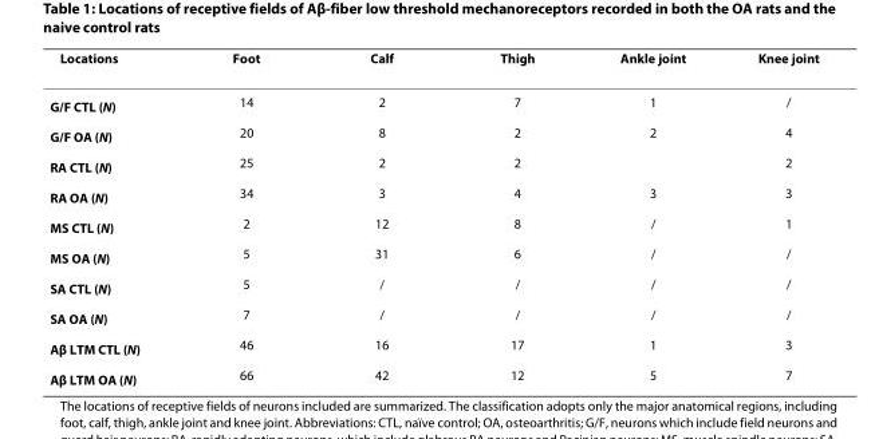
<table><thead><tr><td>Locations</td><td>Foot</td><td>Calf</td><td>Thigh</td><td>Ankle joint</td><td>Knee joint</td></tr></thead><tbody><tr><td>G/F CTL (N)</td><td>14</td><td>2</td><td>7</td><td>1</td><td>/</td></tr><tr><td>G/F OA (N)</td><td>20</td><td>8</td><td>2</td><td>2</td><td>4</td></tr><tr><td>RA CTL (N)</td><td>25</td><td>2</td><td>2</td><td></td><td>2</td></tr><tr><td>RA OA (N)</td><td>34</td><td>3</td><td>4</td><td>3</td><td>3</td></tr><tr><td>MS CTL (N)</td><td>2</td><td>12</td><td>8</td><td>/</td><td>1</td></tr><tr><td>MS OA (N)</td><td>5</td><td>31</td><td>6</td><td>/</td><td>/</td></tr><tr><td>SA CTL (N)</td><td>5</td><td>/</td><td>/</td><td>/</td><td>/</td></tr><tr><td>SA OA (N)</td><td>7</td><td>/</td><td>/</td><td>/</td><td>/</td></tr><tr><td>Aβ LTM CTL (N)</td><td>46</td><td>16</td><td>17</td><td>1</td><td>3</td></tr><tr><td>Aβ LTM OA (N)</td><td>66</td><td>42</td><td>12</td><td>5</td><td>7</td></tr></tbody></table>